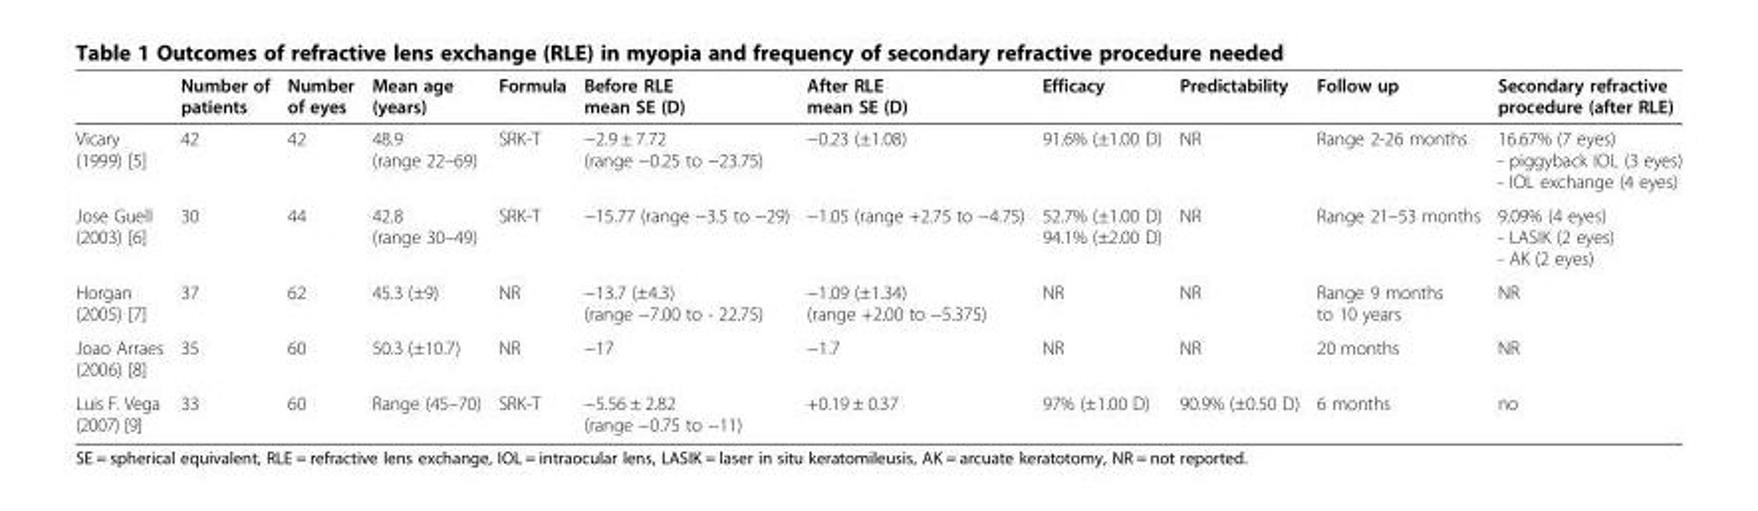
<table><thead><tr><td></td><td>Number of patients</td><td>Number of eyes</td><td>Mean age (years)</td><td>Formula</td><td>Before RLE mean SE (D)</td><td>After RLE mean SE (D)</td><td>Efficacy</td><td>Predictability</td><td>Follow up</td><td>Secondary refractive procedure (after RLE)</td></tr></thead><tbody><tr><td>Vicary (1999) [5]</td><td>42</td><td>42</td><td>48.9 (range 22–69)</td><td>SRK-T</td><td>−2.9 ± 7.72 (range −0.25 to −23.75)</td><td>−0.23 (±1.08)</td><td>91.6% (±1.00 D)</td><td>NR</td><td>Range 2-26 months</td><td>16.67% (7 eyes) - piggyback IOL (3 eyes) - IOL exchange (4 eyes)</td></tr><tr><td>Jose Guell (2003) [6]</td><td>30</td><td>44</td><td>42.8 (range 30–49)</td><td>SRK-T</td><td>−15.77 (range −3.5 to −29)</td><td>−1.05 (range +2.75 to −4.75)</td><td>52.7% (±1.00 D) 94.1% (±2.00 D)</td><td>NR</td><td>Range 21–53 months</td><td>9.09% (4 eyes) - LASIK (2 eyes) - AK (2 eyes)</td></tr><tr><td>Horgan (2005) [7]</td><td>37</td><td>62</td><td>45.3 (±9)</td><td>NR</td><td>−13.7 (±4.3) (range −7.00 to - 22.75)</td><td>−1.09 (±1.34) (range +2.00 to −5.375)</td><td>NR</td><td>NR</td><td>Range 9 months to 10 years</td><td>NR</td></tr><tr><td>Joao Arraes (2006) [8]</td><td>35</td><td>60</td><td>50.3 (±10.7)</td><td>NR</td><td>−17</td><td>−1.7</td><td>NR</td><td>NR</td><td>20 months</td><td>NR</td></tr><tr><td>Luis F. Vega (2007) [9]</td><td>33</td><td>60</td><td>Range (45–70)</td><td>SRK-T</td><td>−5.56 ± 2.82 (range −0.75 to −11)</td><td>+0.19 ± 0.37</td><td>97% (±1.00 D)</td><td>90.9% (±0.50 D)</td><td>6 months</td><td>no</td></tr></tbody></table>